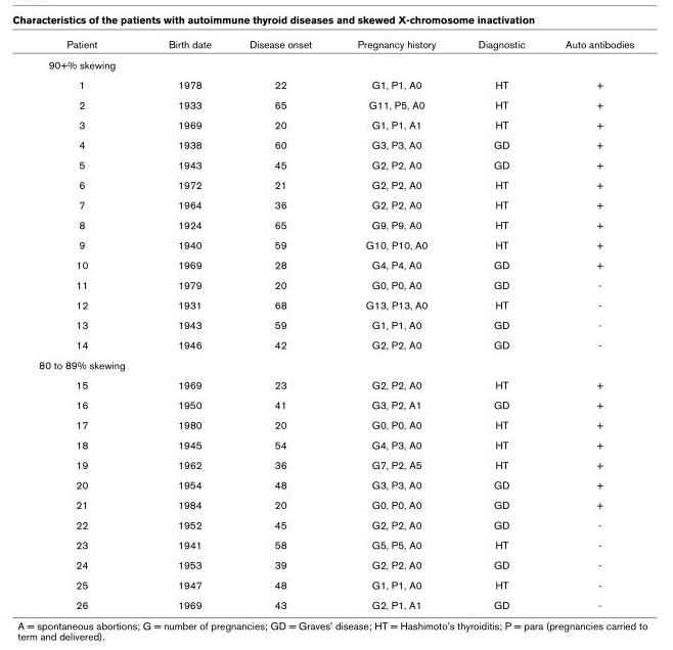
<table><thead><tr><td>Patient</td><td>Birth date</td><td>Disease onset</td><td>Pregnancy history</td><td>Diagnostic</td><td>Auto antibodies</td></tr></thead><tbody><tr><td colspan="6">90+% skewing</td></tr><tr><td>1</td><td>1978</td><td>22</td><td>G1, P1, A0</td><td>HT</td><td>+</td></tr><tr><td>2</td><td>1933</td><td>65</td><td>G11, P5, A0</td><td>HT</td><td>+</td></tr><tr><td>3</td><td>1969</td><td>20</td><td>G1, P1, A1</td><td>HT</td><td>+</td></tr><tr><td>4</td><td>1938</td><td>60</td><td>G3, P3, A0</td><td>GD</td><td>+</td></tr><tr><td>5</td><td>1943</td><td>45</td><td>G2, P2, A0</td><td>GD</td><td>+</td></tr><tr><td>6</td><td>1972</td><td>21</td><td>G2, P2, A0</td><td>HT</td><td>+</td></tr><tr><td>7</td><td>1964</td><td>36</td><td>G2, P2, A0</td><td>HT</td><td>+</td></tr><tr><td>8</td><td>1924</td><td>65</td><td>G9, P9, A0</td><td>HT</td><td>+</td></tr><tr><td>9</td><td>1940</td><td>59</td><td>G10, P10, A0</td><td>HT</td><td>+</td></tr><tr><td>10</td><td>1969</td><td>28</td><td>G4, P4, A0</td><td>GD</td><td>+</td></tr><tr><td>11</td><td>1979</td><td>20</td><td>G0, P0, A0</td><td>GD</td><td>-</td></tr><tr><td>12</td><td>1931</td><td>68</td><td>G13, P13, A0</td><td>HT</td><td>-</td></tr><tr><td>13</td><td>1943</td><td>59</td><td>G1, P1, A0</td><td>GD</td><td>-</td></tr><tr><td>14</td><td>1946</td><td>42</td><td>G2, P2, A0</td><td>GD</td><td>-</td></tr><tr><td colspan="6">80 to 89% skewing</td></tr><tr><td>15</td><td>1969</td><td>23</td><td>G2, P2, A0</td><td>HT</td><td>+</td></tr><tr><td>16</td><td>1950</td><td>41</td><td>G3, P2, A1</td><td>GD</td><td>+</td></tr><tr><td>17</td><td>1980</td><td>20</td><td>G0, P0, A0</td><td>HT</td><td>+</td></tr><tr><td>18</td><td>1945</td><td>54</td><td>G4, P3, A0</td><td>HT</td><td>+</td></tr><tr><td>19</td><td>1962</td><td>36</td><td>G7, P2, A5</td><td>HT</td><td>+</td></tr><tr><td>20</td><td>1954</td><td>48</td><td>G3, P3, A0</td><td>GD</td><td>+</td></tr><tr><td>21</td><td>1984</td><td>20</td><td>G0, P0, A0</td><td>GD</td><td>+</td></tr><tr><td>22</td><td>1952</td><td>45</td><td>G2, P2, A0</td><td>GD</td><td>-</td></tr><tr><td>23</td><td>1941</td><td>58</td><td>G5, P5, A0</td><td>HT</td><td>-</td></tr><tr><td>24</td><td>1953</td><td>39</td><td>G2, P2, A0</td><td>GD</td><td>-</td></tr><tr><td>25</td><td>1947</td><td>48</td><td>G1, P1, A0</td><td>HT</td><td>-</td></tr><tr><td>26</td><td>1969</td><td>43</td><td>G2, P1, A1</td><td>GD</td><td>-</td></tr></tbody></table>